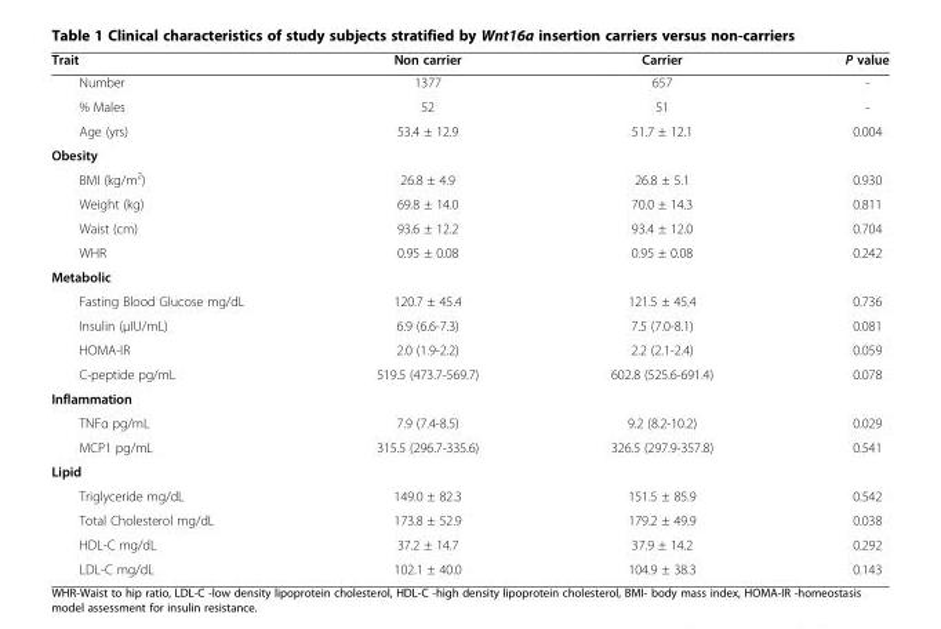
<table><thead><tr><td>Trait</td><td>Non carrier</td><td>Carrier</td><td>P value</td></tr></thead><tbody><tr><td>Number</td><td>1377</td><td>657</td><td>-</td></tr><tr><td>% Males</td><td>52</td><td>51</td><td>-</td></tr><tr><td>Age (yrs)</td><td>53.4 ± 12.9</td><td>51.7 ± 12.1</td><td>0.004</td></tr><tr><td colspan="4">Obesity</td></tr><tr><td>BMI (kg/m<sup>2</sup>)</td><td>26.8 ± 4.9</td><td>26.8 ± 5.1</td><td>0.930</td></tr><tr><td>Weight (kg)</td><td>69.8 ± 14.0</td><td>70.0 ± 14.3</td><td>0.811</td></tr><tr><td>Waist (cm)</td><td>93.6 ± 12.2</td><td>93.4 ± 12.0</td><td>0.704</td></tr><tr><td>WHR</td><td>0.95 ± 0.08</td><td>0.95 ± 0.08</td><td>0.242</td></tr><tr><td colspan="4">Metabolic</td></tr><tr><td>Fasting Blood Glucose mg/dL</td><td>120.7 ± 45.4</td><td>121.5 ± 45.4</td><td>0.736</td></tr><tr><td>Insulin (μIU/mL)</td><td>6.9 (6.6-7.3)</td><td>7.5 (7.0-8.1)</td><td>0.081</td></tr><tr><td>HOMA-IR</td><td>2.0 (1.9-2.2)</td><td>2.2 (2.1-2.4)</td><td>0.059</td></tr><tr><td>C-peptide pg/mL</td><td>519.5 (473.7-569.7)</td><td>602.8 (525.6-691.4)</td><td>0.078</td></tr><tr><td colspan="4">Inflammation</td></tr><tr><td>TNFα pg/mL</td><td>7.9 (7.4-8.5)</td><td>9.2 (8.2-10.2)</td><td>0.029</td></tr><tr><td>MCP1 pg/mL</td><td>315.5 (296.7-335.6)</td><td>326.5 (297.9-357.8)</td><td>0.541</td></tr><tr><td colspan="4">Lipid</td></tr><tr><td>Triglyceride mg/dL</td><td>149.0 ± 82.3</td><td>151.5 ± 85.9</td><td>0.542</td></tr><tr><td>Total Cholesterol mg/dL</td><td>173.8 ± 52.9</td><td>179.2 ± 49.9</td><td>0.038</td></tr><tr><td>HDL-C mg/dL</td><td>37.2 ± 14.7</td><td>37.9 ± 14.2</td><td>0.292</td></tr><tr><td>LDL-C mg/dL</td><td>102.1 ± 40.0</td><td>104.9 ± 38.3</td><td>0.143</td></tr></tbody></table>